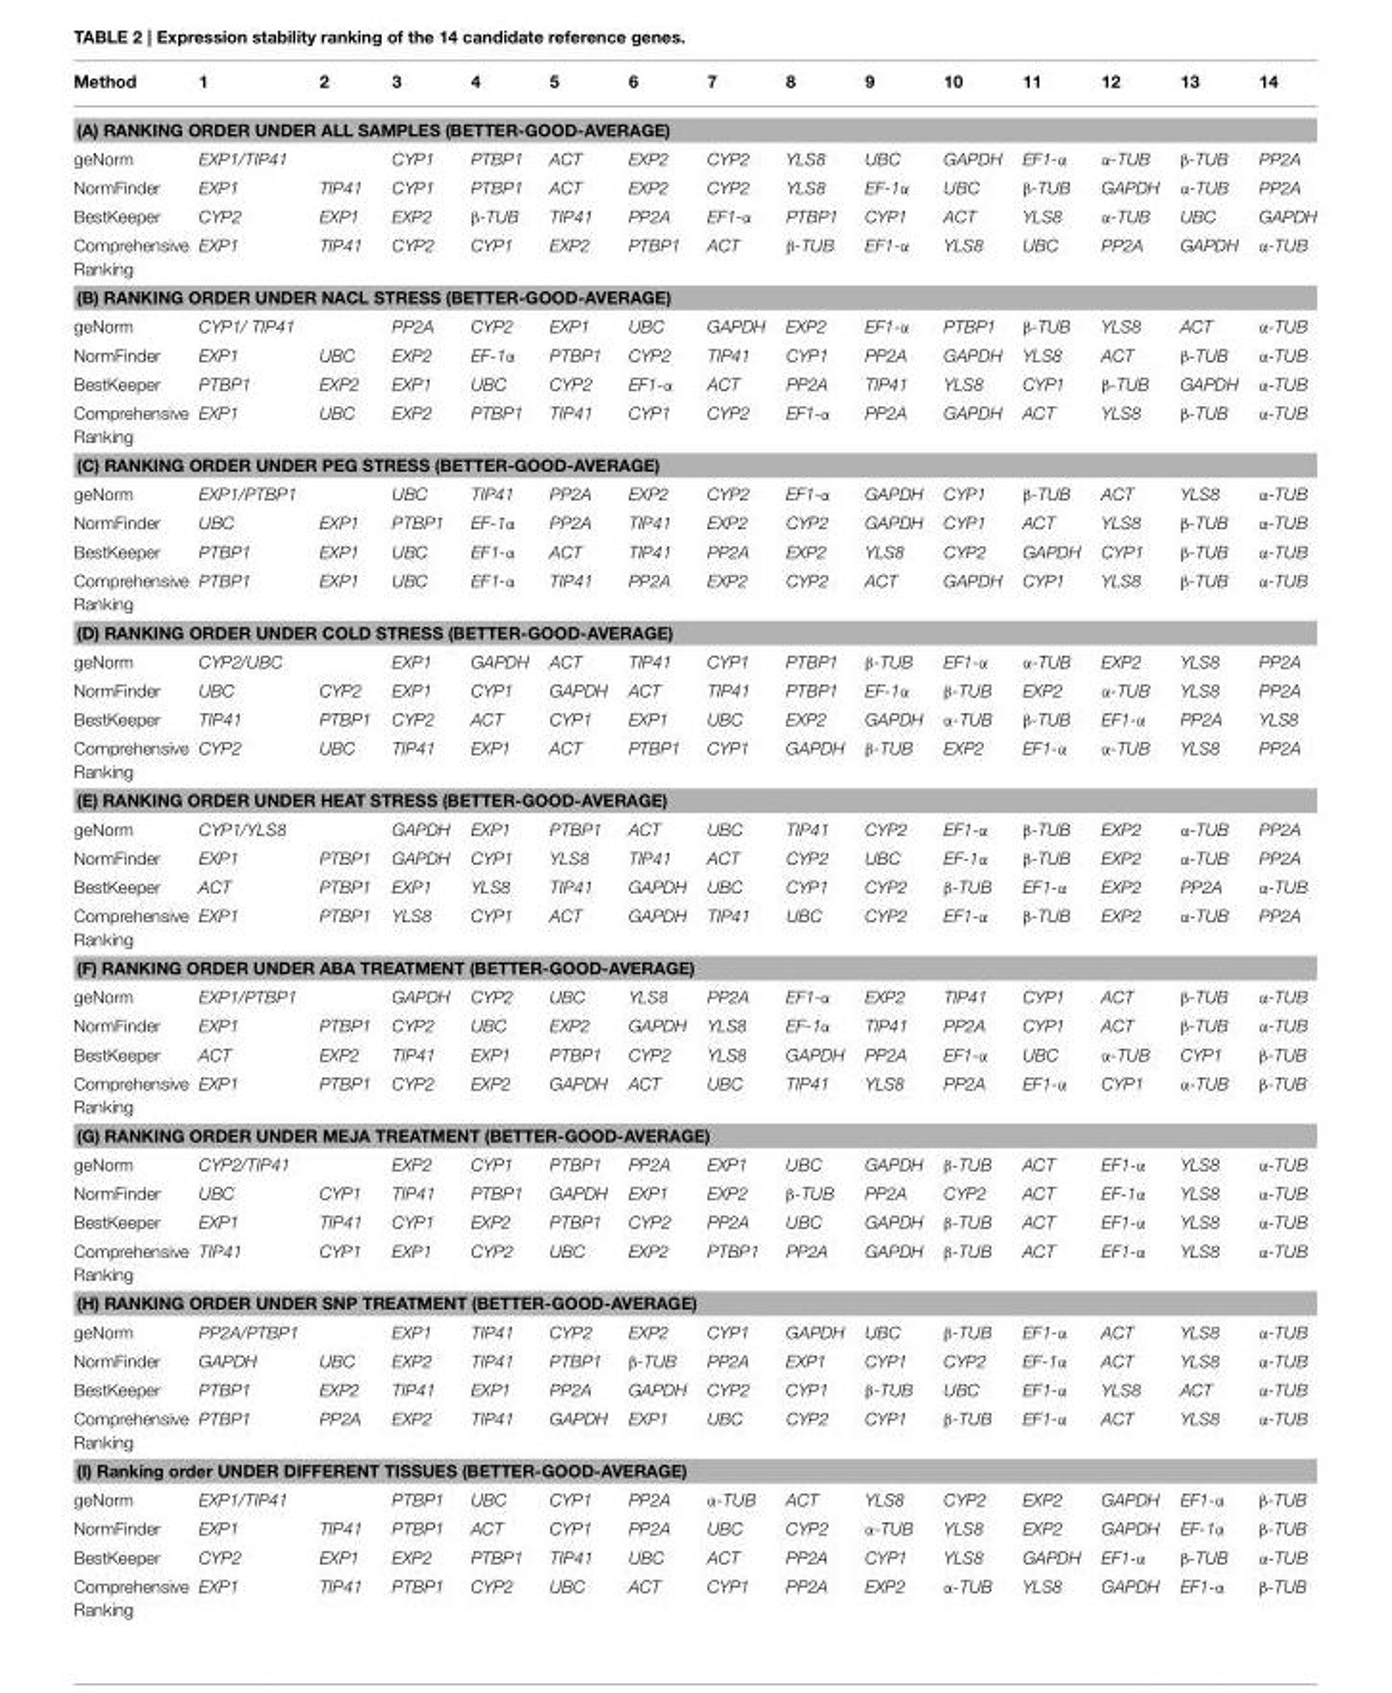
<table><thead><tr><td>Method</td><td>1</td><td>2</td><td>3</td><td>4</td><td>5</td><td>6</td><td>7</td><td>8</td><td>9</td><td>10</td><td>11</td><td>12</td><td>13</td><td>14</td></tr></thead><tbody><tr><td colspan="15">(A) RANKING ORDER UNDER ALL SAMPLES (BETTER-GOOD-AVERAGE)</td></tr><tr><td>geNorm</td><td>EXP1/TIP41</td><td></td><td>CYP1</td><td>PTBP1</td><td>ACT</td><td>EXP2</td><td>CYP2</td><td>YLS8</td><td>UBC</td><td>GAPDH</td><td>EF1-α</td><td>α-TUB</td><td>β-TUB</td><td>PP2A</td></tr><tr><td>NormFinder</td><td>EXP1</td><td>TIP41</td><td>CYP1</td><td>PTBP1</td><td>ACT</td><td>EXP2</td><td>CYP2</td><td>YLS8</td><td>EF-1α</td><td>UBC</td><td>β-TUB</td><td>GAPDH</td><td>α-TUB</td><td>PP2A</td></tr><tr><td>BestKeeper</td><td>CYP2</td><td>EXP1</td><td>EXP2</td><td>β-TUB</td><td>TIP41</td><td>PP2A</td><td>EF1-α</td><td>PTBP1</td><td>CYP1</td><td>ACT</td><td>YLS8</td><td>α-TUB</td><td>UBC</td><td>GAPDH</td></tr><tr><td>Comprehensive Ranking</td><td>EXP1</td><td>TIP41</td><td>CYP2</td><td>CYP1</td><td>EXP2</td><td>PTBP1</td><td>ACT</td><td>β-TUB</td><td>EF1-α</td><td>YLS8</td><td>UBC</td><td>PP2A</td><td>GAPDH</td><td>α-TUB</td></tr><tr><td colspan="15">(B) RANKING ORDER UNDER NACL STRESS (BETTER-GOOD-AVERAGE)</td></tr><tr><td>geNorm</td><td>CYP1/ TIP41</td><td></td><td>PP2A</td><td>CYP2</td><td>EXP1</td><td>UBC</td><td>GAPDH</td><td>EXP2</td><td>EF1-α</td><td>PTBP1</td><td>β-TUB</td><td>YLS8</td><td>ACT</td><td>α-TUB</td></tr><tr><td>NormFinder</td><td>EXP1</td><td>UBC</td><td>EXP2</td><td>EF-1α</td><td>PTBP1</td><td>CYP2</td><td>TIP41</td><td>CYP1</td><td>PP2A</td><td>GAPDH</td><td>YLS8</td><td>ACT</td><td>β-TUB</td><td>α-TUB</td></tr><tr><td>BestKeeper</td><td>PTBP1</td><td>EXP2</td><td>EXP1</td><td>UBC</td><td>CYP2</td><td>EF1-α</td><td>ACT</td><td>PP2A</td><td>TIP41</td><td>YLS8</td><td>CYP1</td><td>β-TUB</td><td>GAPDH</td><td>α-TUB</td></tr><tr><td>Comprehensive Ranking</td><td>EXP1</td><td>UBC</td><td>EXP2</td><td>PTBP1</td><td>TIP41</td><td>CYP1</td><td>CYP2</td><td>EF1-α</td><td>PP2A</td><td>GAPDH</td><td>ACT</td><td>YLS8</td><td>β-TUB</td><td>α-TUB</td></tr><tr><td colspan="15">(C) RANKING ORDER UNDER PEG STRESS (BETTER-GOOD-AVERAGE)</td></tr><tr><td>geNorm</td><td>EXP1/PTBP1</td><td></td><td>UBC</td><td>TIP41</td><td>PP2A</td><td>EXP2</td><td>CYP2</td><td>EF1-α</td><td>GAPDH</td><td>CYP1</td><td>β-TUB</td><td>ACT</td><td>YLS8</td><td>α-TUB</td></tr><tr><td>NormFinder</td><td>UBC</td><td>EXP1</td><td>PTBP1</td><td>EF-1α</td><td>PP2A</td><td>TIP41</td><td>EXP2</td><td>CYP2</td><td>GAPDH</td><td>CYP1</td><td>ACT</td><td>YLS8</td><td>β-TUB</td><td>α-TUB</td></tr><tr><td>BestKeeper</td><td>PTBP1</td><td>EXP1</td><td>UBC</td><td>EF1-α</td><td>ACT</td><td>TIP41</td><td>PP2A</td><td>EXP2</td><td>YLS8</td><td>CYP2</td><td>GAPDH</td><td>CYP1</td><td>β-TUB</td><td>α-TUB</td></tr><tr><td>Comprehensive Ranking</td><td>PTBP1</td><td>EXP1</td><td>UBC</td><td>EF1-α</td><td>TIP41</td><td>PP2A</td><td>EXP2</td><td>CYP2</td><td>ACT</td><td>GAPDH</td><td>CYP1</td><td>YLS8</td><td>β-TUB</td><td>α-TUB</td></tr><tr><td colspan="15">(D) RANKING ORDER UNDER COLD STRESS (BETTER-GOOD-AVERAGE)</td></tr><tr><td>geNorm</td><td>CYP2/UBC</td><td></td><td>EXP1</td><td>GAPDH</td><td>ACT</td><td>TIP41</td><td>CYP1</td><td>PTBP1</td><td>β-TUB</td><td>EF1-α</td><td>α-TUB</td><td>EXP2</td><td>YLS8</td><td>PP2A</td></tr><tr><td>NormFinder</td><td>UBC</td><td>CYP2</td><td>EXP1</td><td>CYP1</td><td>GAPDH</td><td>ACT</td><td>TIP41</td><td>PTBP1</td><td>EF-1α</td><td>β-TUB</td><td>EXP2</td><td>α-TUB</td><td>YLS8</td><td>PP2A</td></tr><tr><td>BestKeeper</td><td>TIP41</td><td>PTBP1</td><td>CYP2</td><td>ACT</td><td>CYP1</td><td>EXP1</td><td>UBC</td><td>EXP2</td><td>GAPDH</td><td>α-TUB</td><td>β-TUB</td><td>EF1-α</td><td>PP2A</td><td>YLS8</td></tr><tr><td>Comprehensive Ranking</td><td>CYP2</td><td>UBC</td><td>TIP41</td><td>EXP1</td><td>ACT</td><td>PTBP1</td><td>CYP1</td><td>GAPDH</td><td>β-TUB</td><td>EXP2</td><td>EF1-α</td><td>α-TUB</td><td>YLS8</td><td>PP2A</td></tr><tr><td colspan="15">(E) RANKING ORDER UNDER HEAT STRESS (BETTER-GOOD-AVERAGE)</td></tr><tr><td>geNorm</td><td>CYP1/YLS8</td><td></td><td>GAPDH</td><td>EXP1</td><td>PTBP1</td><td>ACT</td><td>UBC</td><td>TIP41</td><td>CYP2</td><td>EF1-α</td><td>β-TUB</td><td>EXP2</td><td>α-TUB</td><td>PP2A</td></tr><tr><td>NormFinder</td><td>EXP1</td><td>PTBP1</td><td>GAPDH</td><td>CYP1</td><td>YLS8</td><td>TIP41</td><td>ACT</td><td>CYP2</td><td>UBC</td><td>EF-1α</td><td>β-TUB</td><td>EXP2</td><td>α-TUB</td><td>PP2A</td></tr><tr><td>BestKeeper</td><td>ACT</td><td>PTBP1</td><td>EXP1</td><td>YLS8</td><td>TIP41</td><td>GAPDH</td><td>UBC</td><td>CYP1</td><td>CYP2</td><td>β-TUB</td><td>EF1-α</td><td>EXP2</td><td>PP2A</td><td>α-TUB</td></tr><tr><td>Comprehensive Ranking</td><td>EXP1</td><td>PTBP1</td><td>YLS8</td><td>CYP1</td><td>ACT</td><td>GAPDH</td><td>TIP41</td><td>UBC</td><td>CYP2</td><td>EF1-α</td><td>β-TUB</td><td>EXP2</td><td>α-TUB</td><td>PP2A</td></tr><tr><td colspan="15">(F) RANKING ORDER UNDER ABA TREATMENT (BETTER-GOOD-AVERAGE)</td></tr><tr><td>geNorm</td><td>EXP1/PTBP1</td><td></td><td>GAPDH</td><td>CYP2</td><td>UBC</td><td>YLS8</td><td>PP2A</td><td>EF1-α</td><td>EXP2</td><td>TIP41</td><td>CYP1</td><td>ACT</td><td>β-TUB</td><td>α-TUB</td></tr><tr><td>NormFinder</td><td>EXP1</td><td>PTBP1</td><td>CYP2</td><td>UBC</td><td>EXP2</td><td>GAPDH</td><td>YLS8</td><td>EF-1α</td><td>TIP41</td><td>PP2A</td><td>CYP1</td><td>ACT</td><td>β-TUB</td><td>α-TUB</td></tr><tr><td>BestKeeper</td><td>ACT</td><td>EXP2</td><td>TIP41</td><td>EXP1</td><td>PTBP1</td><td>CYP2</td><td>YLS8</td><td>GAPDH</td><td>PP2A</td><td>EF1-α</td><td>UBC</td><td>α-TUB</td><td>CYP1</td><td>β-TUB</td></tr><tr><td>Comprehensive Ranking</td><td>EXP1</td><td>PTBP1</td><td>CYP2</td><td>EXP2</td><td>GAPDH</td><td>ACT</td><td>UBC</td><td>TIP41</td><td>YLS8</td><td>PP2A</td><td>EF1-α</td><td>CYP1</td><td>α-TUB</td><td>β-TUB</td></tr><tr><td colspan="15">(G) RANKING ORDER UNDER MEJA TREATMENT (BETTER-GOOD-AVERAGE)</td></tr><tr><td>geNorm</td><td>CYP2/TIP41</td><td></td><td>EXP2</td><td>CYP1</td><td>PTBP1</td><td>PP2A</td><td>EXP1</td><td>UBC</td><td>GAPDH</td><td>β-TUB</td><td>ACT</td><td>EF1-α</td><td>YLS8</td><td>α-TUB</td></tr><tr><td>NormFinder</td><td>UBC</td><td>CYP1</td><td>TIP41</td><td>PTBP1</td><td>GAPDH</td><td>EXP1</td><td>EXP2</td><td>β-TUB</td><td>PP2A</td><td>CYP2</td><td>ACT</td><td>EF-1α</td><td>YLS8</td><td>α-TUB</td></tr><tr><td>BestKeeper</td><td>EXP1</td><td>TIP41</td><td>CYP1</td><td>EXP2</td><td>PTBP1</td><td>CYP2</td><td>PP2A</td><td>UBC</td><td>GAPDH</td><td>β-TUB</td><td>ACT</td><td>EF1-α</td><td>YLS8</td><td>α-TUB</td></tr><tr><td>Comprehensive Ranking</td><td>TIP41</td><td>CYP1</td><td>EXP1</td><td>CYP2</td><td>UBC</td><td>EXP2</td><td>PTBP1</td><td>PP2A</td><td>GAPDH</td><td>β-TUB</td><td>ACT</td><td>EF1-α</td><td>YLS8</td><td>α-TUB</td></tr><tr><td colspan="15">(H) RANKING ORDER UNDER SNP TREATMENT (BETTER-GOOD-AVERAGE)</td></tr><tr><td>geNorm</td><td>PP2A/PTBP1</td><td></td><td>EXP1</td><td>TIP41</td><td>CYP2</td><td>EXP2</td><td>CYP1</td><td>GAPDH</td><td>UBC</td><td>β-TUB</td><td>EF1-α</td><td>ACT</td><td>YLS8</td><td>α-TUB</td></tr><tr><td>NormFinder</td><td>GAPDH</td><td>UBC</td><td>EXP2</td><td>TIP41</td><td>PTBP1</td><td>β-TUB</td><td>PP2A</td><td>EXP1</td><td>CYP1</td><td>CYP2</td><td>EF-1α</td><td>ACT</td><td>YLS8</td><td>α-TUB</td></tr><tr><td>BestKeeper</td><td>PTBP1</td><td>EXP2</td><td>TIP41</td><td>EXP1</td><td>PP2A</td><td>GAPDH</td><td>CYP2</td><td>CYP1</td><td>β-TUB</td><td>UBC</td><td>EF1-α</td><td>YLS8</td><td>ACT</td><td>α-TUB</td></tr><tr><td>Comprehensive Ranking</td><td>PTBP1</td><td>PP2A</td><td>EXP2</td><td>TIP41</td><td>GAPDH</td><td>EXP1</td><td>UBC</td><td>CYP2</td><td>CYP1</td><td>β-TUB</td><td>EF1-α</td><td>ACT</td><td>YLS8</td><td>α-TUB</td></tr><tr><td colspan="15">(I) Ranking order UNDER DIFFERENT TISSUES (BETTER-GOOD-AVERAGE)</td></tr><tr><td>geNorm</td><td>EXP1/TIP41</td><td></td><td>PTBP1</td><td>UBC</td><td>CYP1</td><td>PP2A</td><td>α-TUB</td><td>ACT</td><td>YLS8</td><td>CYP2</td><td>EXP2</td><td>GAPDH</td><td>EF1-α</td><td>β-TUB</td></tr><tr><td>NormFinder</td><td>EXP1</td><td>TIP41</td><td>PTBP1</td><td>ACT</td><td>CYP1</td><td>PP2A</td><td>UBC</td><td>CYP2</td><td>α-TUB</td><td>YLS8</td><td>EXP2</td><td>GAPDH</td><td>EF-1α</td><td>β-TUB</td></tr><tr><td>BestKeeper</td><td>CYP2</td><td>EXP1</td><td>EXP2</td><td>PTBP1</td><td>TIP41</td><td>UBC</td><td>ACT</td><td>PP2A</td><td>CYP1</td><td>YLS8</td><td>GAPDH</td><td>EF1-α</td><td>β-TUB</td><td>α-TUB</td></tr><tr><td>Comprehensive Ranking</td><td>EXP1</td><td>TIP41</td><td>PTBP1</td><td>CYP2</td><td>UBC</td><td>ACT</td><td>CYP1</td><td>PP2A</td><td>EXP2</td><td>α-TUB</td><td>YLS8</td><td>GAPDH</td><td>EF1-α</td><td>β-TUB</td></tr></tbody></table>